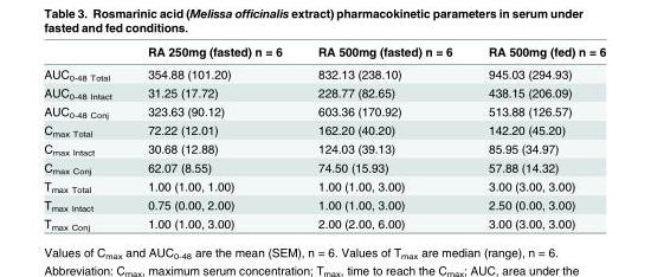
<table><thead><tr><td></td><td>RA 250mg (fasted) n = 6</td><td>RA 500mg (fasted) n = 6</td><td>RA 500mg (fed) n = 6</td></tr></thead><tbody><tr><td>AUC<sub>0-48 Total</sub></td><td>354.88 (101.20)</td><td>832.13 (238.10)</td><td>945.03 (294.93)</td></tr><tr><td>AUC<sub>0-48 Intact</sub></td><td>31.25 (17.72)</td><td>228.77 (82.65)</td><td>438.15 (206.09)</td></tr><tr><td>AUC<sub>0-48 Conj</sub></td><td>323.63 (90.12)</td><td>603.36 (170.92)</td><td>513.88 (126.57)</td></tr><tr><td>C<sub>max Total</sub></td><td>72.22 (12.01)</td><td>162.20 (40.20)</td><td>142.20 (45.20)</td></tr><tr><td>C<sub>max Intact</sub></td><td>30.68 (12.88)</td><td>124.03 (39.13)</td><td>85.95 (34.97)</td></tr><tr><td>C<sub>max Conj</sub></td><td>62.07 (8.55)</td><td>74.50 (15.93)</td><td>57.88 (14.32)</td></tr><tr><td>T<sub>max Total</sub></td><td>1.00 (1.00, 1.00)</td><td>1.00 (1.00, 3.00)</td><td>3.00 (3.00, 3.00)</td></tr><tr><td>T<sub>max Intact</sub></td><td>0.75 (0.00, 2.00)</td><td>1.00 (1.00, 3.00)</td><td>2.50 (0.00, 3.00)</td></tr><tr><td>T<sub>max Conj</sub></td><td>1.00 (1.00, 3.00)</td><td>2.00 (2.00, 6.00)</td><td>3.00 (3.00, 3.00)</td></tr></tbody></table>